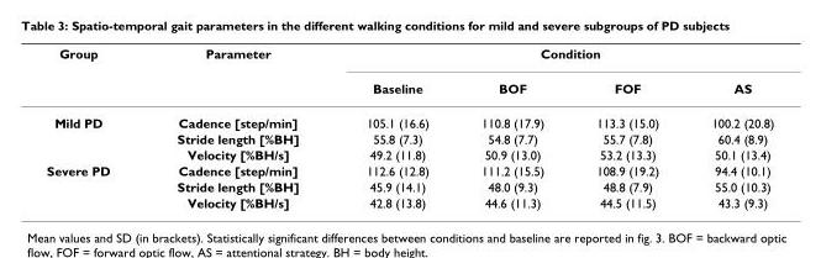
<table><thead><tr><td rowspan="2">Group</td><td rowspan="2">Parameter</td><td colspan="4">Condition</td></tr><tr><td>Baseline</td><td>BOF</td><td>FOF</td><td>AS</td></tr></thead><tbody><tr><td rowspan="3">Mild PD</td><td>Cadence [step/min]</td><td>105.1 (16.6)</td><td>110.8 (17.9)</td><td>113.3 (15.0)</td><td>100.2 (20.8)</td></tr><tr><td>Stride length [%BH]</td><td>55.8 (7.3)</td><td>54.8 (7.7)</td><td>55.7 (7.8)</td><td>60.4 (8.9)</td></tr><tr><td>Velocity [%BH/s]</td><td>49.2 (11.8)</td><td>50.9 (13.0)</td><td>53.2 (13.3)</td><td>50.1 (13.4)</td></tr><tr><td rowspan="3">Severe PD</td><td>Cadence [step/min]</td><td>112.6 (12.8)</td><td>111.2 (15.5)</td><td>108.9 (19.2)</td><td>94.4 (10.1)</td></tr><tr><td>Stride length [%BH]</td><td>45.9 (14.1)</td><td>48.0 (9.3)</td><td>48.8 (7.9)</td><td>55.0 (10.3)</td></tr><tr><td>Velocity [%BH/s]</td><td>42.8 (13.8)</td><td>44.6 (11.3)</td><td>44.5 (11.5)</td><td>43.3 (9.3)</td></tr></tbody></table>